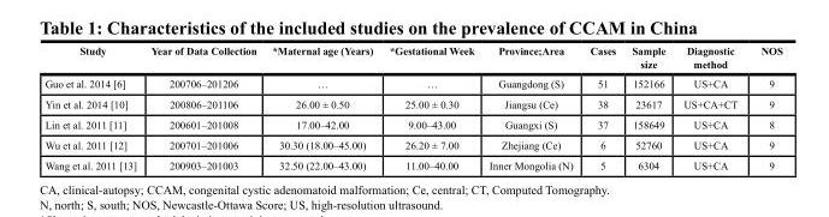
<table><thead><tr><td>Study</td><td>Year of Data Collection</td><td>*Maternal age (Years)</td><td>*Gestational Week</td><td>Province;Area</td><td>Cases</td><td>Sample size</td><td>Diagnostic method</td><td>NOS</td></tr></thead><tbody><tr><td>Guo et al. 2014 [6]</td><td>200706–201206</td><td>…</td><td>…</td><td>Guangdong (S)</td><td>51</td><td>152166</td><td>US+CA</td><td>9</td></tr><tr><td>Yin et al. 2014 [10]</td><td>200806–201106</td><td>26.00 ± 0.50</td><td>25.00 ± 0.30</td><td>Jiangsu (Ce)</td><td>38</td><td>23617</td><td>US+CA+CT</td><td>9</td></tr><tr><td>Lin et al. 2011 [11]</td><td>200601–201008</td><td>17.00–42.00</td><td>9.00–43.00</td><td>Guangxi (S)</td><td>37</td><td>158649</td><td>US+CA</td><td>8</td></tr><tr><td>Wu et al. 2011 [12]</td><td>200701–201006</td><td>30.30 (18.00–45.00)</td><td>26.20 ± 7.00</td><td>Zhejiang (Ce)</td><td>6</td><td>52760</td><td>US+CA</td><td>9</td></tr><tr><td>Wang et al. 2011 [13]</td><td>200903–201003</td><td>32.50 (22.00–43.00)</td><td>11.00–40.00</td><td>Inner Mongolia (N)</td><td>5</td><td>6304</td><td>US+CA</td><td>9</td></tr></tbody></table>